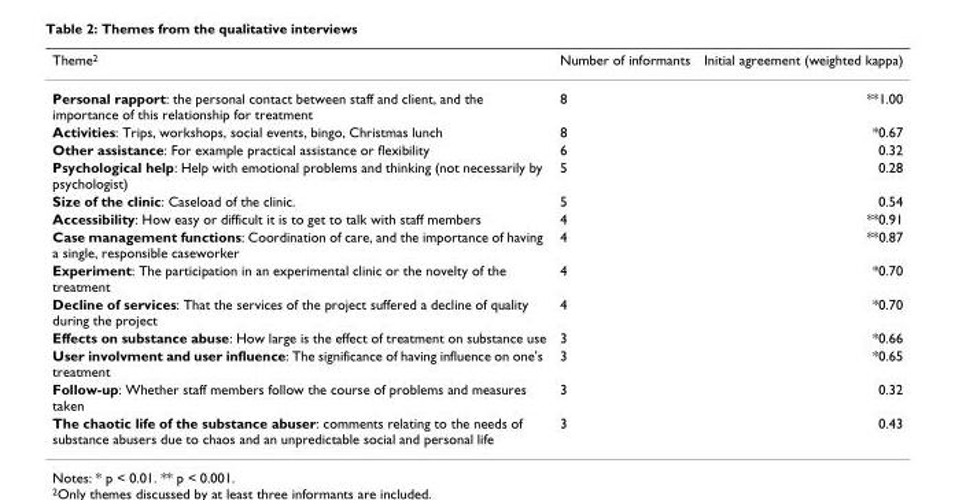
<table><thead><tr><td>Theme<sup>2</sup></td><td>Number of informants</td><td>Initial agreement (weighted kappa)</td></tr></thead><tbody><tr><td>Personal rapport: the personal contact between staff and client, and the importance of this relationship for treatment</td><td>8</td><td>**1.00</td></tr><tr><td>Activities: Trips, workshops, social events, bingo, Christmas lunch</td><td>8</td><td>*0.67</td></tr><tr><td>Other assistance: For example practical assistance or flexibility</td><td>6</td><td>0.32</td></tr><tr><td>Psychological help: Help with emotional problems and thinking (not necessarily by psychologist)</td><td>5</td><td>0.28</td></tr><tr><td>Size of the clinic: Caseload of the clinic.</td><td>5</td><td>0.54</td></tr><tr><td>Accessibility: How easy or difficult it is to get to talk with staff members</td><td>4</td><td>**0.91</td></tr><tr><td>Case management functions: Coordination of care, and the importance of having a single, responsible caseworker</td><td>4</td><td>**0.87</td></tr><tr><td>Experiment: The participation in an experimental clinic or the novelty of the treatment</td><td>4</td><td>*0.70</td></tr><tr><td>Decline of services: That the services of the project suffered a decline of quality during the project</td><td>4</td><td>*0.70</td></tr><tr><td>Effects on substance abuse: How large is the effect of treatment on substance use</td><td>3</td><td>*0.66</td></tr><tr><td>User involvment and user influence: The significance of having influence on one&#x27;s treatment</td><td>3</td><td>*0.65</td></tr><tr><td>Follow-up: Whether staff members follow the course of problems and measures taken</td><td>3</td><td>0.32</td></tr><tr><td>The chaotic life of the substance abuser: comments relating to the needs of substance abusers due to chaos and an unpredictable social and personal life</td><td>3</td><td>0.43</td></tr></tbody></table>